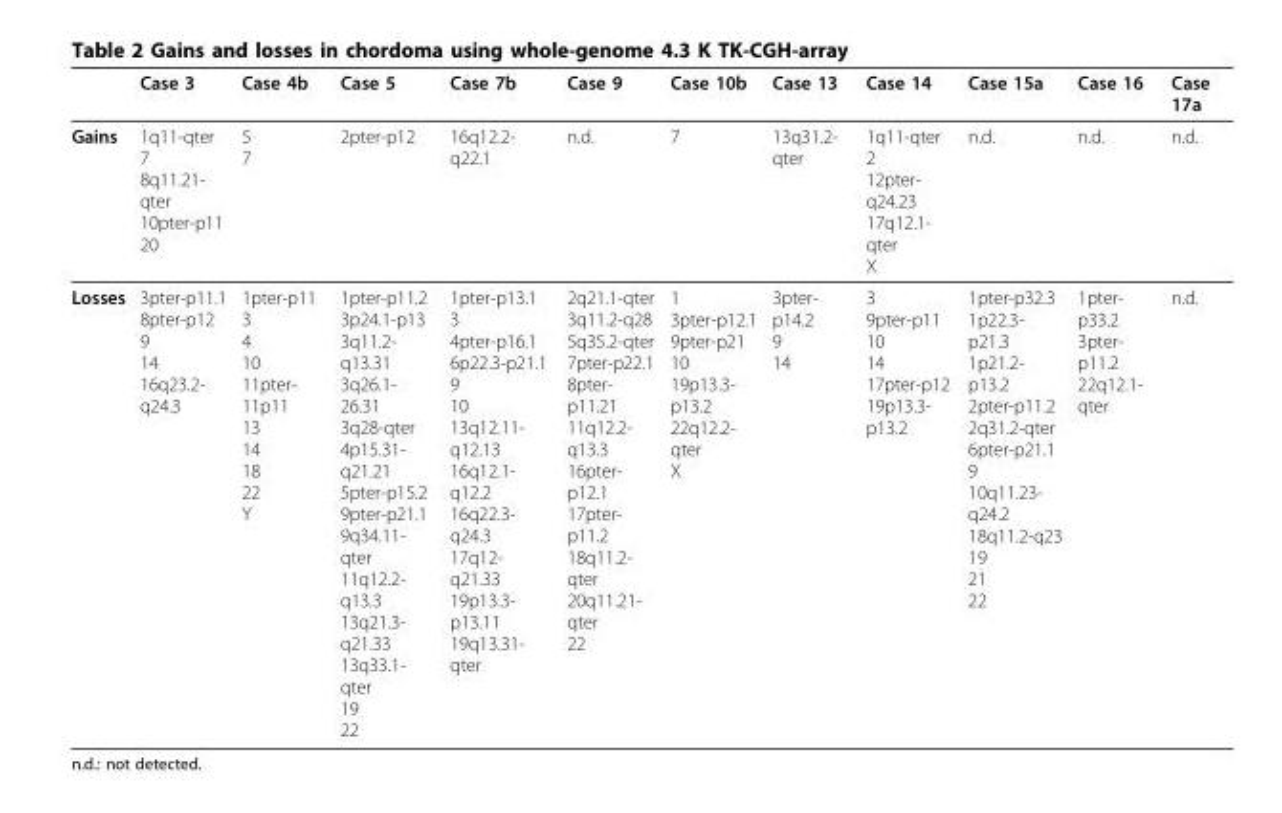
<table><thead><tr><td></td><td>Case 3</td><td>Case 4b</td><td>Case 5</td><td>Case 7b</td><td>Case 9</td><td>Case 10b</td><td>Case 13</td><td>Case 14</td><td>Case 15a</td><td>Case 16</td><td>Case 17a</td></tr></thead><tbody><tr><td>Gains</td><td>1q11-qter 7 8q11.21- qter 10pter-p11 20</td><td>5 7</td><td>2pter-p12</td><td>16q12.2- q22.1</td><td>n.d.</td><td>7</td><td>13q31.2- qter</td><td>1q11-qter 2 12pter- q24.23 17q12.1- qter X</td><td>n.d.</td><td>n.d.</td><td>n.d.</td></tr><tr><td>Losses</td><td>3pter-p11.1 8pter-p12 9 14 16q23.2- q24.3</td><td>1pter-p11 3 4 10 11pter- 11p11 13 14 18 22 Y</td><td>1pter-p11.2 3p24.1-p13 3q11.2- q13.31 3q26.1- 26.31 3q28-qter 4p15.31- q21.21 5pter-p15.2 9pter-p21.1 9q34.11- qter 11q12.2- q13.3 13q21.3- q21.33 13q33.1- qter 19 22</td><td>1pter-p13.1 3 4pter-p16.1 6p22.3-p21.1 9 10 13q12.11- q12.13 16q12.1- q12.2 16q22.3- q24.3 17q12- q21.33 19p13.3- p13.11 19q13.31- qter</td><td>2q21.1-qter 3q11.2-q28 5q35.2-qter 7pter-p22.1 8pter- p11.21 11q12.2- q13.3 16pter- p12.1 17pter- p11.2 18q11.2- qter 20q11.21- qter 22</td><td>1 3pter-p12.1 9pter-p21 10 19p13.3- p13.2 22q12.2- qter X</td><td>3pter- p14.2 9 14</td><td>3 9pter-p11 10 14 17pter-p12 19p13.3- p13.2</td><td>1pter-p32.3 1p22.3- p21.3 1p21.2- p13.2 2pter-p11.2 2q31.2-qter 6pter-p21.1 9 10q11.23- q24.2 18q11.2-q23 19 21 22</td><td>1pter- p33.2 3pter- p11.2 22q12.1- qter</td><td>n.d.</td></tr></tbody></table>